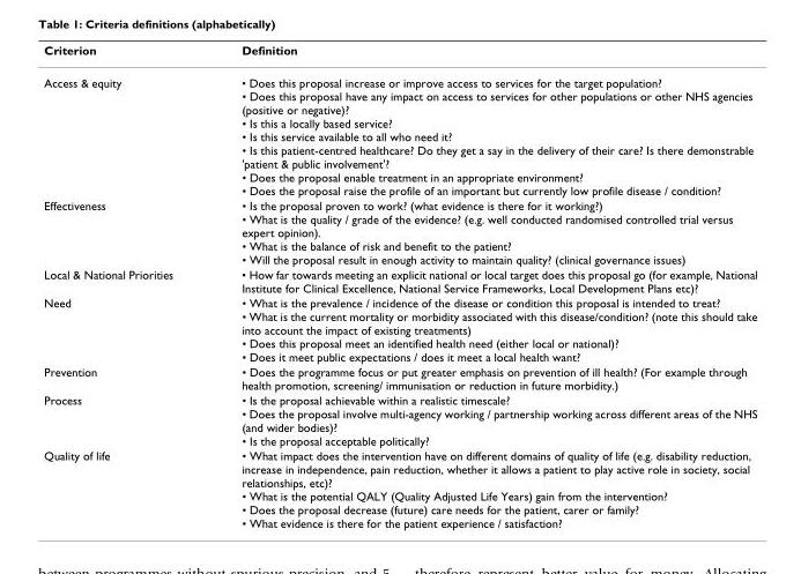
<table><thead><tr><td>Criterion</td><td>Definition</td></tr></thead><tbody><tr><td>Access &amp; equity</td><td>• Does this proposal increase or improve access to services for the target population? • Does this proposal have any impact on access to services for other populations or other NHS agencies (positive or negative)? • Is this a locally based service? • Is this service available to all who need it? • Is this patient-centred healthcare? Do they get a say in the delivery of their care? Is there demonstrable &#x27;patient &amp; public involvement&#x27;? • Does the proposal enable treatment in an appropriate environment? • Does the proposal raise the profile of an important but currently low profile disease / condition?</td></tr><tr><td>Effectiveness</td><td>• Is the proposal proven to work? (what evidence is there for it working?) • What is the quality / grade of the evidence? (e.g. well conducted randomised controlled trial versus expert opinion). • What is the balance of risk and benefit to the patient? • Will the proposal result in enough activity to maintain quality? (clinical governance issues)</td></tr><tr><td>Local &amp; National Priorities</td><td>• How far towards meeting an explicit national or local target does this proposal go (for example, National Institute for Clinical Excellence, National Service Frameworks, Local Development Plans etc)?</td></tr><tr><td>Need</td><td>• What is the prevalence / incidence of the disease or condition this proposal is intended to treat? • What is the current mortality or morbidity associated with this disease/condition? (note this should take into account the impact of existing treatments) • Does this proposal meet an identified health need (either local or national)? • Does it meet public expectations / does it meet a local health want?</td></tr><tr><td>Prevention</td><td>• Does the programme focus or put greater emphasis on prevention of ill health? (For example through health promotion, screening/ immunisation or reduction in future morbidity.)</td></tr><tr><td>Process</td><td>• Is the proposal achievable within a realistic timescale? • Does the proposal involve multi-agency working / partnership working across different areas of the NHS (and wider bodies)? • Is the proposal acceptable politically?</td></tr><tr><td>Quality of life</td><td>• What impact does the intervention have on different domains of quality of life (e.g. disability reduction, increase in independence, pain reduction, whether it allows a patient to play active role in society, social relationships, etc)? • What is the potential QALY (Quality Adjusted Life Years) gain from the intervention? • Does the proposal decrease (future) care needs for the patient, carer or family? • What evidence is there for the patient experience / satisfaction?</td></tr></tbody></table>